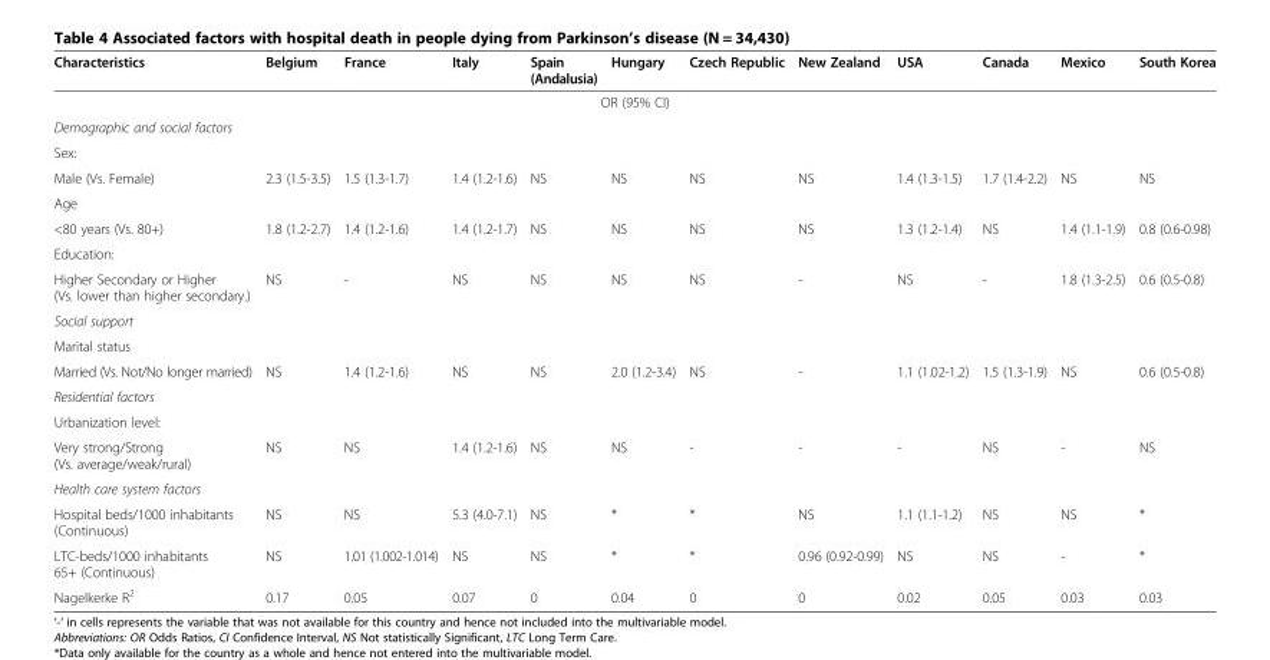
<table><thead><tr><td>Characteristics</td><td>Belgium</td><td>France</td><td>Italy</td><td>Spain (Andalusia)</td><td>Hungary</td><td>Czech Republic</td><td>New Zealand</td><td>USA</td><td>Canada</td><td>Mexico</td><td>South Korea</td></tr></thead><tbody><tr><td colspan="12">OR (95% CI)</td></tr><tr><td colspan="12">Demographic and social factors</td></tr><tr><td colspan="12">Sex:</td></tr><tr><td>Male (Vs. Female)</td><td>2.3 (1.5-3.5)</td><td>1.5 (1.3-1.7)</td><td>1.4 (1.2-1.6)</td><td>NS</td><td>NS</td><td>NS</td><td>NS</td><td>1.4 (1.3-1.5)</td><td>1.7 (1.4-2.2)</td><td>NS</td><td>NS</td></tr><tr><td colspan="12">Age</td></tr><tr><td>&lt;80 years (Vs. 80+)</td><td>1.8 (1.2-2.7)</td><td>1.4 (1.2-1.6)</td><td>1.4 (1.2-1.7)</td><td>NS</td><td>NS</td><td>NS</td><td>NS</td><td>1.3 (1.2-1.4)</td><td>NS</td><td>1.4 (1.1-1.9)</td><td>0.8 (0.6-0.98)</td></tr><tr><td colspan="12">Education:</td></tr><tr><td>Higher Secondary or Higher (Vs. lower than higher secondary.)</td><td>NS</td><td>-</td><td>NS</td><td>NS</td><td>NS</td><td>NS</td><td>-</td><td>NS</td><td>-</td><td>1.8 (1.3-2.5)</td><td>0.6 (0.5-0.8)</td></tr><tr><td colspan="12">Social support</td></tr><tr><td colspan="12">Marital status</td></tr><tr><td>Married (Vs. Not/No longer married)</td><td>NS</td><td>1.4 (1.2-1.6)</td><td>NS</td><td>NS</td><td>2.0 (1.2-3.4)</td><td>NS</td><td>-</td><td>1.1 (1.02-1.2)</td><td>1.5 (1.3-1.9)</td><td>NS</td><td>0.6 (0.5-0.8)</td></tr><tr><td colspan="12">Residential factors</td></tr><tr><td colspan="12">Urbanization level:</td></tr><tr><td>Very strong/Strong (Vs. average/weak/rural)</td><td>NS</td><td>NS</td><td>1.4 (1.2-1.6)</td><td>NS</td><td>NS</td><td>-</td><td>-</td><td>-</td><td>NS</td><td>-</td><td>NS</td></tr><tr><td colspan="12">Health care system factors</td></tr><tr><td>Hospital beds/1000 inhabitants (Continuous)</td><td>NS</td><td>NS</td><td>5.3 (4.0-7.1)</td><td>NS</td><td>*</td><td>*</td><td>NS</td><td>1.1 (1.1-1.2)</td><td>NS</td><td>NS</td><td>*</td></tr><tr><td>LTC-beds/1000 inhabitants 65+ (Continuous)</td><td>NS</td><td>1.01 (1.002-1.014)</td><td>NS</td><td>NS</td><td>*</td><td>*</td><td>0.96 (0.92-0.99)</td><td>NS</td><td>NS</td><td>-</td><td>*</td></tr><tr><td>Nagelkerke R<sup>2</sup></td><td>0.17</td><td>0.05</td><td>0.07</td><td>0</td><td>0.04</td><td>0</td><td>0</td><td>0.02</td><td>0.05</td><td>0.03</td><td>0.03</td></tr></tbody></table>